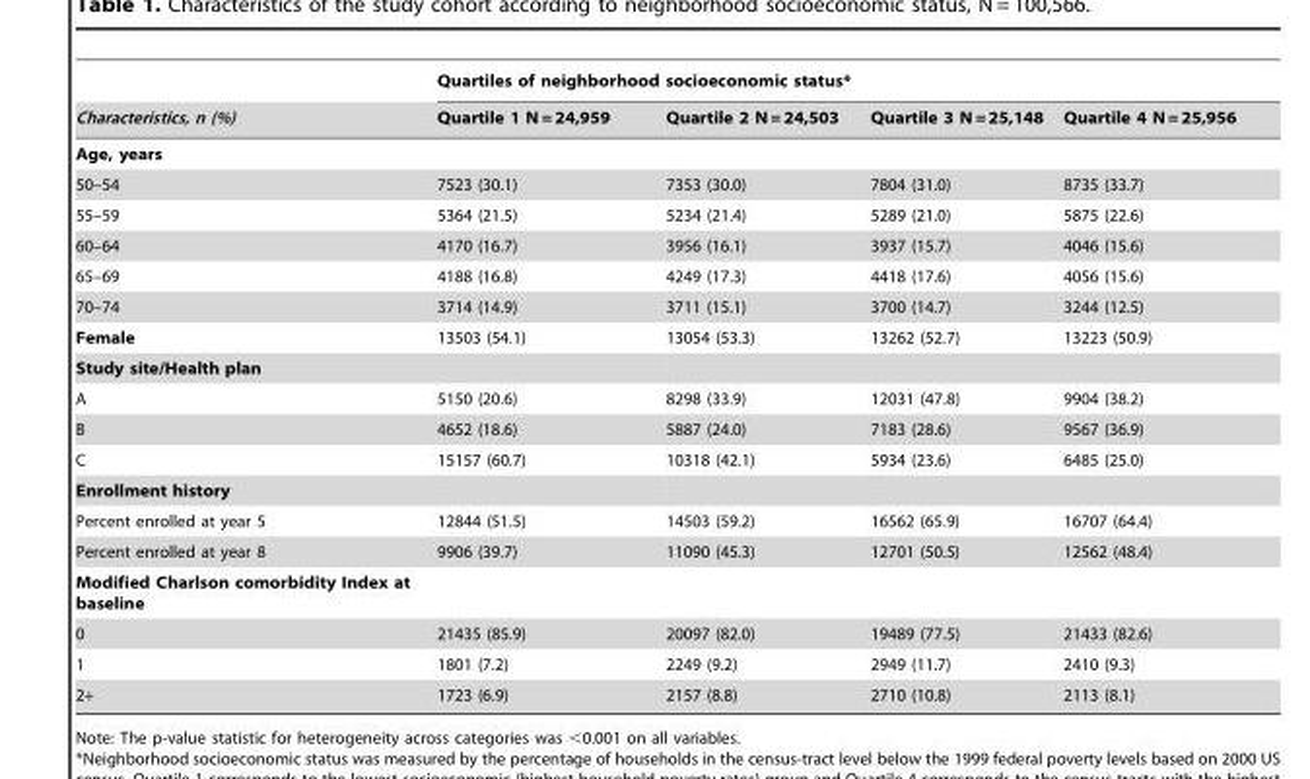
<table><thead><tr><td rowspan="2">Characteristics, n (%)</td><td colspan="4">Quartiles of neighborhood socioeconomic status*</td></tr><tr><td>Quartile 1 N = 24,959</td><td>Quartile 2 N = 24,503</td><td>Quartile 3 N = 25,148</td><td>Quartile 4 N = 25,956</td></tr></thead><tbody><tr><td colspan="5">Age, years</td></tr><tr><td>50–54</td><td>7523 (30.1)</td><td>7353 (30.0)</td><td>7804 (31.0)</td><td>8735 (33.7)</td></tr><tr><td>55–59</td><td>5364 (21.5)</td><td>5234 (21.4)</td><td>5289 (21.0)</td><td>5875 (22.6)</td></tr><tr><td>60–64</td><td>4170 (16.7)</td><td>3956 (16.1)</td><td>3937 (15.7)</td><td>4046 (15.6)</td></tr><tr><td>65–69</td><td>4188 (16.8)</td><td>4249 (17.3)</td><td>4418 (17.6)</td><td>4056 (15.6)</td></tr><tr><td>70–74</td><td>3714 (14.9)</td><td>3711 (15.1)</td><td>3700 (14.7)</td><td>3244 (12.5)</td></tr><tr><td>Female</td><td>13503 (54.1)</td><td>13054 (53.3)</td><td>13262 (52.7)</td><td>13223 (50.9)</td></tr><tr><td colspan="5">Study site/Health plan</td></tr><tr><td>A</td><td>5150 (20.6)</td><td>8298 (33.9)</td><td>12031 (47.8)</td><td>9904 (38.2)</td></tr><tr><td>B</td><td>4652 (18.6)</td><td>5887 (24.0)</td><td>7183 (28.6)</td><td>9567 (36.9)</td></tr><tr><td>C</td><td>15157 (60.7)</td><td>10318 (42.1)</td><td>5934 (23.6)</td><td>6485 (25.0)</td></tr><tr><td colspan="5">Enrollment history</td></tr><tr><td>Percent enrolled at year 5</td><td>12844 (51.5)</td><td>14503 (59.2)</td><td>16562 (65.9)</td><td>16707 (64.4)</td></tr><tr><td>Percent enrolled at year 8</td><td>9906 (39.7)</td><td>11090 (45.3)</td><td>12701 (50.5)</td><td>12562 (48.4)</td></tr><tr><td colspan="5">Modified Charlson comorbidity Index at baseline</td></tr><tr><td>0</td><td>21435 (85.9)</td><td>20097 (82.0)</td><td>19489 (77.5)</td><td>21433 (82.6)</td></tr><tr><td>1</td><td>1801 (7.2)</td><td>2249 (9.2)</td><td>2949 (11.7)</td><td>2410 (9.3)</td></tr><tr><td>2+</td><td>1723 (6.9)</td><td>2157 (8.8)</td><td>2710 (10.8)</td><td>2113 (8.1)</td></tr></tbody></table>